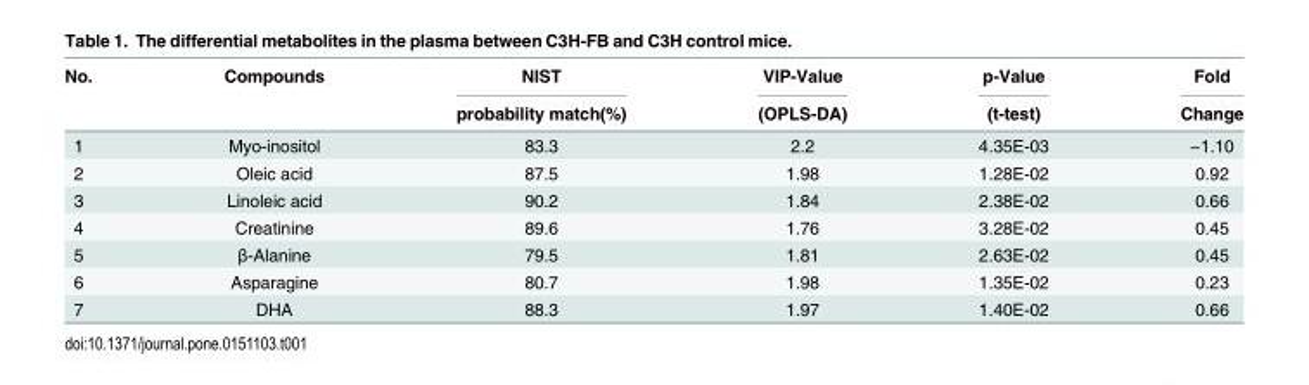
<table><thead><tr><td rowspan="2">No.</td><td rowspan="2">Compounds</td><td rowspan="2">NIST probability match(%)</td><td rowspan="2">VIP-Value (OPLS-DA)</td><td rowspan="2">p-Value (t-test)</td><td rowspan="2">Fold Change</td></tr><tr></tr></thead><tbody><tr><td>1</td><td>Myo-inositol</td><td>83.3</td><td>2.2</td><td>4.35E-03</td><td>−1.10</td></tr><tr><td>2</td><td>Oleic acid</td><td>87.5</td><td>1.98</td><td>1.28E-02</td><td>0.92</td></tr><tr><td>3</td><td>Linoleic acid</td><td>90.2</td><td>1.84</td><td>2.38E-02</td><td>0.66</td></tr><tr><td>4</td><td>Creatinine</td><td>89.6</td><td>1.76</td><td>3.28E-02</td><td>0.45</td></tr><tr><td>5</td><td>β-Alanine</td><td>79.5</td><td>1.81</td><td>2.63E-02</td><td>0.45</td></tr><tr><td>6</td><td>Asparagine</td><td>80.7</td><td>1.98</td><td>1.35E-02</td><td>0.23</td></tr><tr><td>7</td><td>DHA</td><td>88.3</td><td>1.97</td><td>1.40E-02</td><td>0.66</td></tr></tbody></table>